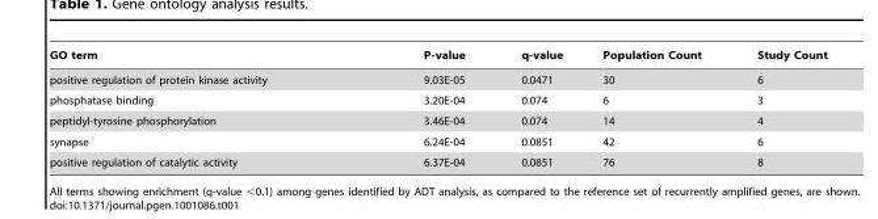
<table><thead><tr><td>GO term</td><td>P-value</td><td>q-value</td><td>Population Count</td><td>Study Count</td></tr></thead><tbody><tr><td>positive regulation of protein kinase activity</td><td>9.03E-05</td><td>0.0471</td><td>30</td><td>6</td></tr><tr><td>phosphatase binding</td><td>3.20E-04</td><td>0.074</td><td>6</td><td>3</td></tr><tr><td>peptidyl-tyrosine phosphorylation</td><td>3.46E-04</td><td>0.074</td><td>14</td><td>4</td></tr><tr><td>synapse</td><td>6.24E-04</td><td>0.0851</td><td>42</td><td>6</td></tr><tr><td>positive regulation of catalytic activity</td><td>6.37E-04</td><td>0.0851</td><td>76</td><td>8</td></tr></tbody></table>